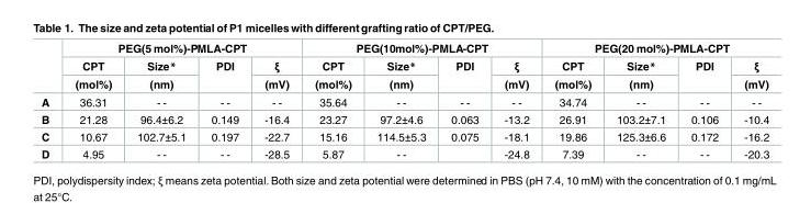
<table><thead><tr><td rowspan="3"></td><td colspan="4">PEG(5 mol%)-PMLA-CPT</td><td colspan="4">PEG(10mol%)-PMLA-CPT</td><td colspan="4">PEG(20 mol%)-PMLA-CPT</td></tr><tr><td rowspan="2">CPT (mol%)</td><td rowspan="2">Size* (nm)</td><td rowspan="2">PDI</td><td rowspan="2">ξ (mV)</td><td rowspan="2">CPT (mol%)</td><td rowspan="2">Size* (nm)</td><td rowspan="2">PDI</td><td rowspan="2">ξ (mV)</td><td rowspan="2">CPT (mol%)</td><td rowspan="2">Size* (nm)</td><td rowspan="2">PDI</td><td rowspan="2">ξ (mV)</td></tr><tr></tr></thead><tbody><tr><td>A</td><td>36.31</td><td>- -</td><td>- -</td><td>- -</td><td>35.64</td><td>- -</td><td>- -</td><td>- -</td><td>34.74</td><td>- -</td><td>- -</td><td>- -</td></tr><tr><td>B</td><td>21.28</td><td>96.4±6.2</td><td>0.149</td><td>-16.4</td><td>23.27</td><td>97.2±4.6</td><td>0.063</td><td>-13.2</td><td>26.91</td><td>103.2±7.1</td><td>0.106</td><td>-10.4</td></tr><tr><td>C</td><td>10.67</td><td>102.7±5.1</td><td>0.197</td><td>-22.7</td><td>15.16</td><td>114.5±5.3</td><td>0.075</td><td>-18.1</td><td>19.86</td><td>125.3±6.6</td><td>0.172</td><td>-16.2</td></tr><tr><td>D</td><td>4.95</td><td>- -</td><td>- -</td><td>-28.5</td><td>5.87</td><td>- -</td><td></td><td>-24.8</td><td>7.39</td><td>- -</td><td>- -</td><td>-20.3</td></tr></tbody></table>